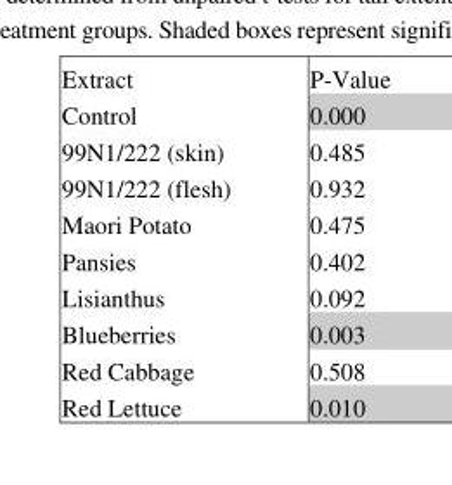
<table><thead><tr><td>Extract</td><td>P-Value</td></tr></thead><tbody><tr><td>Control</td><td>0.000</td></tr><tr><td>99N1/222 (skin)</td><td>0.485</td></tr><tr><td>99N1/222 (flesh)</td><td>0.932</td></tr><tr><td>Maori Potato</td><td>0.475</td></tr><tr><td>Pansies</td><td>0.402</td></tr><tr><td>Lisianthus</td><td>0.092</td></tr><tr><td>Blueberries</td><td>0.003</td></tr><tr><td>Red Cabbage</td><td>0.508</td></tr><tr><td>Red Lettuce</td><td>0.010</td></tr></tbody></table>